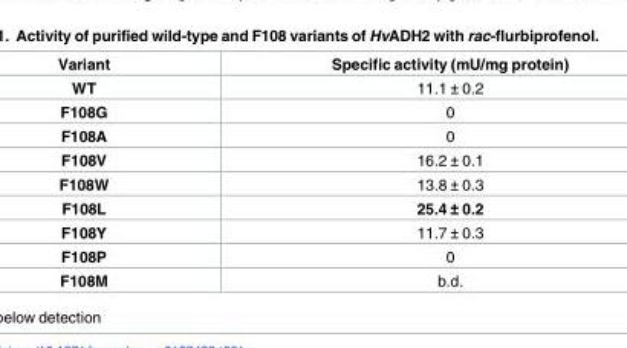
<table><thead><tr><td>Variant</td><td>Specific activity (mU/mg protein)</td></tr></thead><tbody><tr><td>WT</td><td>11.1 ± 0.2</td></tr><tr><td>F108G</td><td>0</td></tr><tr><td>F108A</td><td>0</td></tr><tr><td>F108V</td><td>16.2 ± 0.1</td></tr><tr><td>F108W</td><td>13.8 ± 0.3</td></tr><tr><td>F108L</td><td>25.4 ± 0.2</td></tr><tr><td>F108Y</td><td>11.7 ± 0.3</td></tr><tr><td>F108P</td><td>0</td></tr><tr><td>F108M</td><td>b.d.</td></tr></tbody></table>